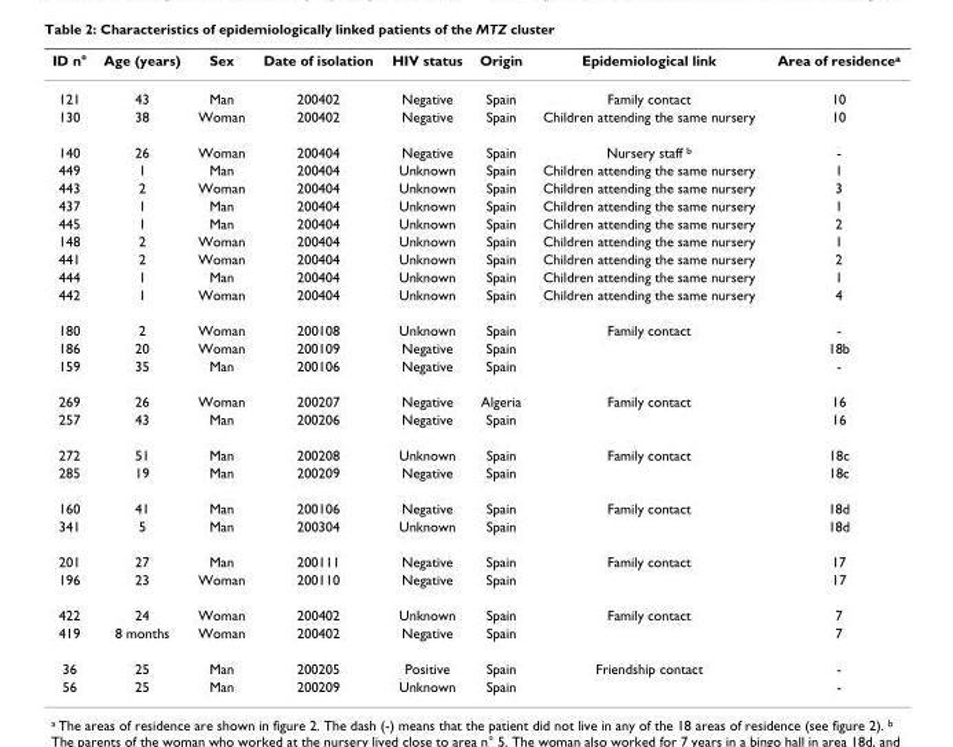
<table><thead><tr><td>ID n°</td><td>Age (years)</td><td>Sex</td><td>Date of isolation</td><td>HIV status</td><td>Origin</td><td>Epidemiological link</td><td>Area of residence<sup>a</sup></td></tr></thead><tbody><tr><td>121</td><td>43</td><td>Man</td><td>200402</td><td>Negative</td><td>Spain</td><td>Family contact</td><td>10</td></tr><tr><td>130</td><td>38</td><td>Woman</td><td>200402</td><td>Negative</td><td>Spain</td><td>Children attending the same nursery</td><td>10</td></tr><tr><td>140</td><td>26</td><td>Woman</td><td>200404</td><td>Negative</td><td>Spain</td><td>Nursery staff <sup>b</sup></td><td>-</td></tr><tr><td>449</td><td>1</td><td>Man</td><td>200404</td><td>Unknown</td><td>Spain</td><td>Children attending the same nursery</td><td>1</td></tr><tr><td>443</td><td>2</td><td>Woman</td><td>200404</td><td>Unknown</td><td>Spain</td><td>Children attending the same nursery</td><td>3</td></tr><tr><td>437</td><td>1</td><td>Man</td><td>200404</td><td>Unknown</td><td>Spain</td><td>Children attending the same nursery</td><td>1</td></tr><tr><td>445</td><td>1</td><td>Man</td><td>200404</td><td>Unknown</td><td>Spain</td><td>Children attending the same nursery</td><td>2</td></tr><tr><td>148</td><td>2</td><td>Woman</td><td>200404</td><td>Unknown</td><td>Spain</td><td>Children attending the same nursery</td><td>1</td></tr><tr><td>441</td><td>2</td><td>Woman</td><td>200404</td><td>Unknown</td><td>Spain</td><td>Children attending the same nursery</td><td>2</td></tr><tr><td>444</td><td>1</td><td>Man</td><td>200404</td><td>Unknown</td><td>Spain</td><td>Children attending the same nursery</td><td>1</td></tr><tr><td>442</td><td>1</td><td>Woman</td><td>200404</td><td>Unknown</td><td>Spain</td><td>Children attending the same nursery</td><td>4</td></tr><tr><td>180</td><td>2</td><td>Woman</td><td>200108</td><td>Unknown</td><td>Spain</td><td>Family contact</td><td>-</td></tr><tr><td>186</td><td>20</td><td>Woman</td><td>200109</td><td>Negative</td><td>Spain</td><td></td><td>18b</td></tr><tr><td>159</td><td>35</td><td>Man</td><td>200106</td><td>Negative</td><td>Spain</td><td></td><td>-</td></tr><tr><td>269</td><td>26</td><td>Woman</td><td>200207</td><td>Negative</td><td>Algeria</td><td>Family contact</td><td>16</td></tr><tr><td>257</td><td>43</td><td>Man</td><td>200206</td><td>Negative</td><td>Spain</td><td></td><td>16</td></tr><tr><td>272</td><td>51</td><td>Man</td><td>200208</td><td>Unknown</td><td>Spain</td><td>Family contact</td><td>18c</td></tr><tr><td>285</td><td>19</td><td>Man</td><td>200209</td><td>Negative</td><td>Spain</td><td></td><td>18c</td></tr><tr><td>160</td><td>41</td><td>Man</td><td>200106</td><td>Negative</td><td>Spain</td><td>Family contact</td><td>18d</td></tr><tr><td>341</td><td>5</td><td>Man</td><td>200304</td><td>Unknown</td><td>Spain</td><td></td><td>18d</td></tr><tr><td>201</td><td>27</td><td>Man</td><td>200111</td><td>Negative</td><td>Spain</td><td>Family contact</td><td>17</td></tr><tr><td>196</td><td>23</td><td>Woman</td><td>200110</td><td>Negative</td><td>Spain</td><td></td><td>17</td></tr><tr><td>422</td><td>24</td><td>Woman</td><td>200402</td><td>Unknown</td><td>Spain</td><td>Family contact</td><td>7</td></tr><tr><td>419</td><td>8 months</td><td>Woman</td><td>200402</td><td>Negative</td><td>Spain</td><td></td><td>7</td></tr><tr><td>36</td><td>25</td><td>Man</td><td>200205</td><td>Positive</td><td>Spain</td><td>Friendship contact</td><td>-</td></tr><tr><td>56</td><td>25</td><td>Man</td><td>200209</td><td>Unknown</td><td>Spain</td><td></td><td>-</td></tr></tbody></table>